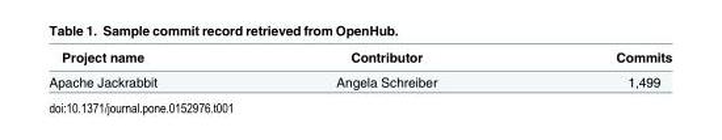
<table><thead><tr><td>Project name</td><td>Contributor</td><td>Commits</td></tr></thead><tbody><tr><td>Apache Jackrabbit</td><td>Angela Schreiber</td><td>1,499</td></tr></tbody></table>